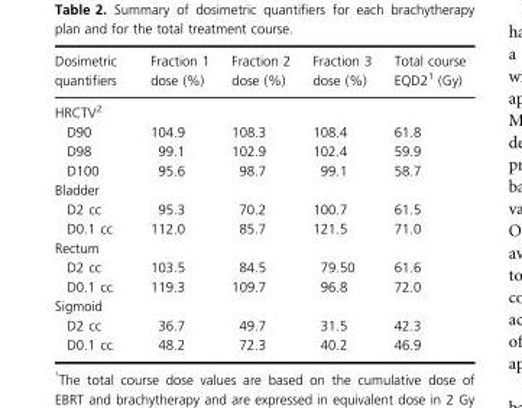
<table><thead><tr><td>Dosimetric quantifiers</td><td>Fraction 1 dose (%)</td><td>Fraction 2 dose (%)</td><td>Fraction 3 dose (%)</td><td>Total course EQD21 (Gy)</td></tr></thead><tbody><tr><td colspan="5">HRCTV2</td></tr><tr><td>D90</td><td>104.9</td><td>108.3</td><td>108.4</td><td>61.8</td></tr><tr><td>D98</td><td>99.1</td><td>102.9</td><td>102.4</td><td>59.9</td></tr><tr><td>D100</td><td>95.6</td><td>98.7</td><td>99.1</td><td>58.7</td></tr><tr><td colspan="5">Bladder</td></tr><tr><td>D2 cc</td><td>95.3</td><td>70.2</td><td>100.7</td><td>61.5</td></tr><tr><td>D0.1 cc</td><td>112.0</td><td>85.7</td><td>121.5</td><td>71.0</td></tr><tr><td colspan="5">Rectum</td></tr><tr><td>D2 cc</td><td>103.5</td><td>84.5</td><td>79.50</td><td>61.6</td></tr><tr><td>D0.1 cc</td><td>119.3</td><td>109.7</td><td>96.8</td><td>72.0</td></tr><tr><td colspan="5">Sigmoid</td></tr><tr><td>D2 cc</td><td>36.7</td><td>49.7</td><td>31.5</td><td>42.3</td></tr><tr><td>D0.1 cc</td><td>48.2</td><td>72.3</td><td>40.2</td><td>46.9</td></tr></tbody></table>